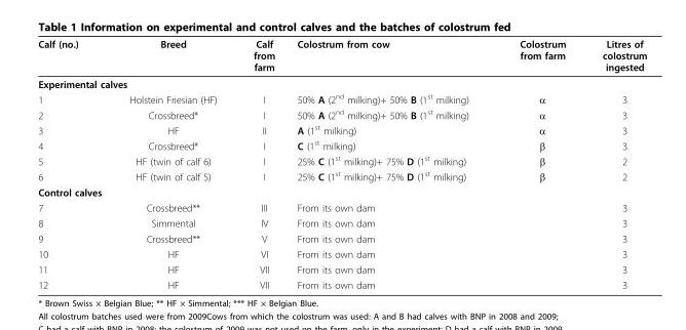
<table><thead><tr><td>Calf (no.)</td><td>Breed</td><td>Calf from farm</td><td>Colostrum from cow</td><td>Colostrum from farm</td><td>Litres of colostrum ingested</td></tr></thead><tbody><tr><td colspan="6">Experimental calves</td></tr><tr><td>1</td><td>Holstein Friesian (HF)</td><td>I</td><td>50% A (2<sup>nd</sup> milking)+ 50% B (1<sup>st</sup> milking)</td><td>α</td><td>3</td></tr><tr><td>2</td><td>Crossbreed*</td><td>I</td><td>50% A (2<sup>nd</sup> milking)+ 50% B (1<sup>st</sup> milking)</td><td>α</td><td>3</td></tr><tr><td>3</td><td>HF</td><td>II</td><td>A (1<sup>st</sup> milking)</td><td>α</td><td>3</td></tr><tr><td>4</td><td>Crossbreed*</td><td>I</td><td>C (1<sup>st</sup> milking)</td><td>β</td><td>3</td></tr><tr><td>5</td><td>HF (twin of calf 6)</td><td>I</td><td>25% C (1<sup>st</sup> milking)+ 75% D (1<sup>st</sup> milking)</td><td>β</td><td>2</td></tr><tr><td>6</td><td>HF (twin of calf 5)</td><td>I</td><td>25% C (1<sup>st</sup> milking)+ 75% D (1<sup>st</sup> milking)</td><td>β</td><td>2</td></tr><tr><td colspan="6">Control calves</td></tr><tr><td>7</td><td>Crossbreed**</td><td>III</td><td>From its own dam</td><td></td><td>3</td></tr><tr><td>8</td><td>Simmental</td><td>IV</td><td>From its own dam</td><td></td><td>3</td></tr><tr><td>9</td><td>Crossbreed**</td><td>V</td><td>From its own dam</td><td></td><td>3</td></tr><tr><td>10</td><td>HF</td><td>VI</td><td>From its own dam</td><td></td><td>3</td></tr><tr><td>11</td><td>HF</td><td>VII</td><td>From its own dam</td><td></td><td>3</td></tr><tr><td>12</td><td>HF</td><td>VII</td><td>From its own dam</td><td></td><td>3</td></tr></tbody></table>